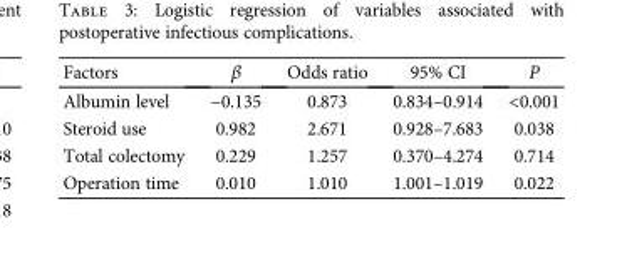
<table><thead><tr><td>Factors</td><td>β</td><td>Odds ratio</td><td>95% CI</td><td>P</td></tr></thead><tbody><tr><td>Albumin level</td><td>−0.135</td><td>0.873</td><td>0.834–0.914</td><td>&lt;0.001</td></tr><tr><td>Steroid use</td><td>0.982</td><td>2.671</td><td>0.928–7.683</td><td>0.038</td></tr><tr><td>Total colectomy</td><td>0.229</td><td>1.257</td><td>0.370–4.274</td><td>0.714</td></tr><tr><td>Operation time</td><td>0.010</td><td>1.010</td><td>1.001–1.019</td><td>0.022</td></tr></tbody></table>